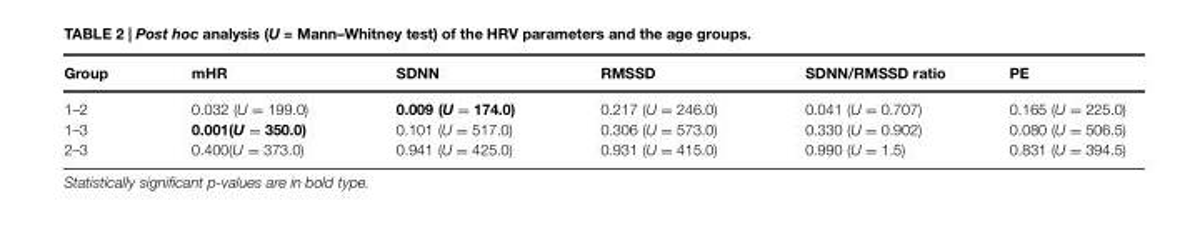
<table><thead><tr><td>Group</td><td>mHR</td><td>SDNN</td><td>RMSSD</td><td>SDNN/RMSSD ratio</td><td>PE</td></tr></thead><tbody><tr><td>1–2 1–3 2–3</td><td>0.032 (U = 199.0) 0.001(U = 350.0) 0.400(U = 373.0)</td><td>0.009 (U = 174.0) 0.101 (U = 517.0) 0.941 (U = 425.0)</td><td>0.217 (U = 246.0) 0.306 (U = 573.0) 0.931 (U = 415.0)</td><td>0.041 (U = 0.707) 0.330 (U = 0.902) 0.990 (U = 1.5)</td><td>0.165 (U = 225.0) 0.080 (U = 506.5) 0.831 (U = 394.5)</td></tr></tbody></table>